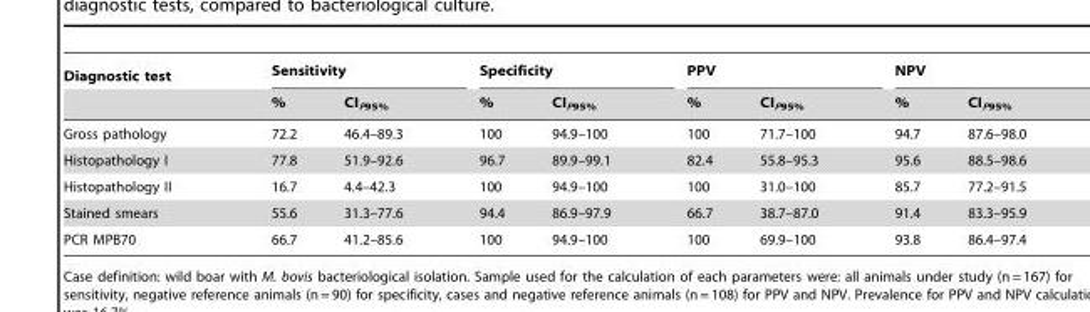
<table><thead><tr><td rowspan="2">Diagnostic test</td><td colspan="2">Sensitivity</td><td colspan="2">Specificity</td><td colspan="2">PPV</td><td colspan="2">NPV</td></tr><tr><td>%</td><td>CI<sub>P95%</sub></td><td>%</td><td>CI<sub>P95%</sub></td><td>%</td><td>CI<sub>P95%</sub></td><td>%</td><td>CI<sub>P95%</sub></td></tr></thead><tbody><tr><td>Gross pathology</td><td>72.2</td><td>46.4–89.3</td><td>100</td><td>94.9–100</td><td>100</td><td>71.7–100</td><td>94.7</td><td>87.6–98.0</td></tr><tr><td>Histopathology I</td><td>77.8</td><td>51.9–92.6</td><td>96.7</td><td>89.9–99.1</td><td>82.4</td><td>55.8–95.3</td><td>95.6</td><td>88.5–98.6</td></tr><tr><td>Histopathology II</td><td>16.7</td><td>4.4–42.3</td><td>100</td><td>94.9–100</td><td>100</td><td>31.0–100</td><td>85.7</td><td>77.2–91.5</td></tr><tr><td>Stained smears</td><td>55.6</td><td>31.3–77.6</td><td>94.4</td><td>86.9–97.9</td><td>66.7</td><td>38.7–87.0</td><td>91.4</td><td>83.3–95.9</td></tr><tr><td>PCR MPB70</td><td>66.7</td><td>41.2–85.6</td><td>100</td><td>94.9–100</td><td>100</td><td>69.9–100</td><td>93.8</td><td>86.4–97.4</td></tr></tbody></table>